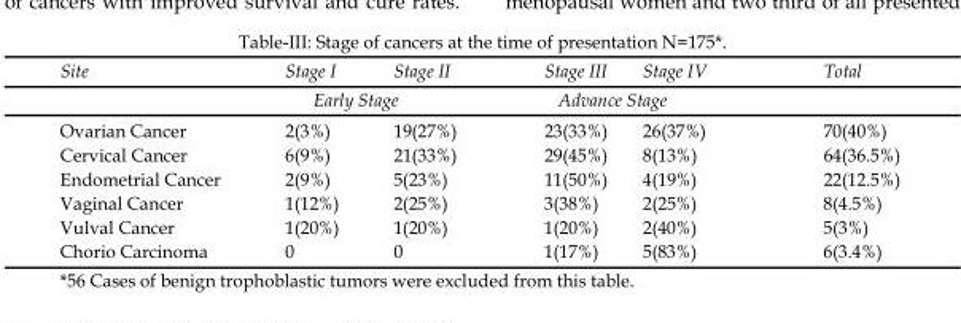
<table><thead><tr><td rowspan="2">Site</td><td>Stage I</td><td>Stage II</td><td>Stage III</td><td>Stage IV</td><td rowspan="2">Total</td></tr><tr><td colspan="2">Early Stage</td><td colspan="2">Advance Stage</td></tr></thead><tbody><tr><td>Ovarian Cancer</td><td>2(3%)</td><td>19(27%)</td><td>23(33%)</td><td>26(37%)</td><td>70(40%)</td></tr><tr><td>Cervical Cancer</td><td>6(9%)</td><td>21(33%)</td><td>29(45%)</td><td>8(13%)</td><td>64(36.5%)</td></tr><tr><td>Endometrial Cancer</td><td>2(9%)</td><td>5(23%)</td><td>11(50%)</td><td>4(19%)</td><td>22(12.5%)</td></tr><tr><td>Vaginal Cancer</td><td>1(12%)</td><td>2(25%)</td><td>3(38%)</td><td>2(25%)</td><td>8(4.5%)</td></tr><tr><td>Vulval Cancer</td><td>1(20%)</td><td>1(20%)</td><td>1(20%)</td><td>2(40%)</td><td>5(3%)</td></tr><tr><td>Chorio Carcinoma</td><td>0</td><td>0</td><td>1(17%)</td><td>5(83%)</td><td>6(3.4%)</td></tr></tbody></table>